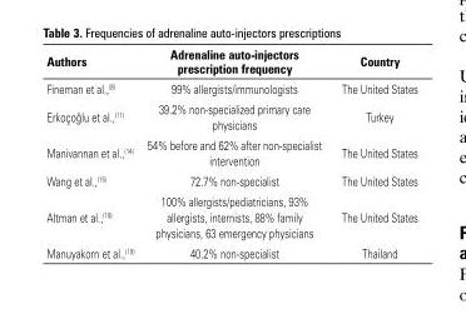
<table><thead><tr><td>Authors</td><td>Adrenaline auto-injectors prescription frequency</td><td>Country</td></tr></thead><tbody><tr><td>Fineman et al.,<sup>(8)</sup></td><td>99% allergists/immunologists</td><td>The United States</td></tr><tr><td>Erkoçoğlu et al.,<sup>(11)</sup></td><td>39.2% non-specialized primary care physicians</td><td>Turkey</td></tr><tr><td>Manivannan et al.,<sup>(14)</sup></td><td>54% before and 62% after non-specialist intervention</td><td>The United States</td></tr><tr><td>Wang et al.,<sup>(15)</sup></td><td>72.7% non-specialist</td><td>The United States</td></tr><tr><td>Altman et al.,<sup>(18)</sup></td><td>100% allergists/pediatricians, 93% allergists, internists, 88% family physicians, 63 emergency physicians</td><td>The United States</td></tr><tr><td>Manuyakorn et al.,<sup>(19)</sup></td><td>40.2% non-specialist</td><td>Thailand</td></tr></tbody></table>